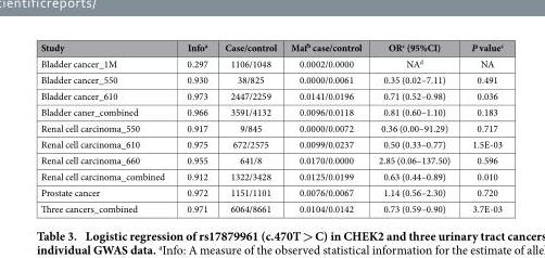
<table><thead><tr><td>Study</td><td>Info<sup>a</sup></td><td>Case/control</td><td>Maf<sup>b</sup> case/control</td><td>OR<sup>c</sup> (95%CI)</td><td>P value<sup>c</sup></td></tr></thead><tbody><tr><td>Bladder cancer_1M</td><td>0.297</td><td>1106/1048</td><td>0.0002/0.0000</td><td>NA<sup>d</sup></td><td>NA</td></tr><tr><td>Bladder cancer_550</td><td>0.930</td><td>38/825</td><td>0.0000/0.0061</td><td>0.35 (0.02–7.11)</td><td>0.491</td></tr><tr><td>Bladder cancer_610</td><td>0.973</td><td>2447/2259</td><td>0.0141/0.0196</td><td>0.71 (0.52–0.98)</td><td>0.036</td></tr><tr><td>Bladder caner_combined</td><td>0.966</td><td>3591/4132</td><td>0.0096/0.0118</td><td>0.81 (0.60–1.10)</td><td>0.183</td></tr><tr><td>Renal cell carcinoma_550</td><td>0.917</td><td>9/845</td><td>0.0000/0.0072</td><td>0.36 (0.00–91.29)</td><td>0.717</td></tr><tr><td>Renal cell carcinoma_610</td><td>0.975</td><td>672/2575</td><td>0.0099/0.0237</td><td>0.50 (0.33–0.77)</td><td>1.5E-03</td></tr><tr><td>Renal cell carcinoma_660</td><td>0.955</td><td>641/8</td><td>0.0170/0.0000</td><td>2.85 (0.06–137.50)</td><td>0.596</td></tr><tr><td>Renal cell carcinoma_combined</td><td>0.912</td><td>1322/3428</td><td>0.0125/0.0199</td><td>0.63 (0.44–0.89)</td><td>0.010</td></tr><tr><td>Prostate cancer</td><td>0.972</td><td>1151/1101</td><td>0.0076/0.0067</td><td>1.14 (0.56–2.30)</td><td>0.720</td></tr><tr><td>Three cancers_combined</td><td>0.971</td><td>6064/8661</td><td>0.0104/0.0142</td><td>0.73 (0.59–0.90)</td><td>3.7E-03</td></tr></tbody></table>